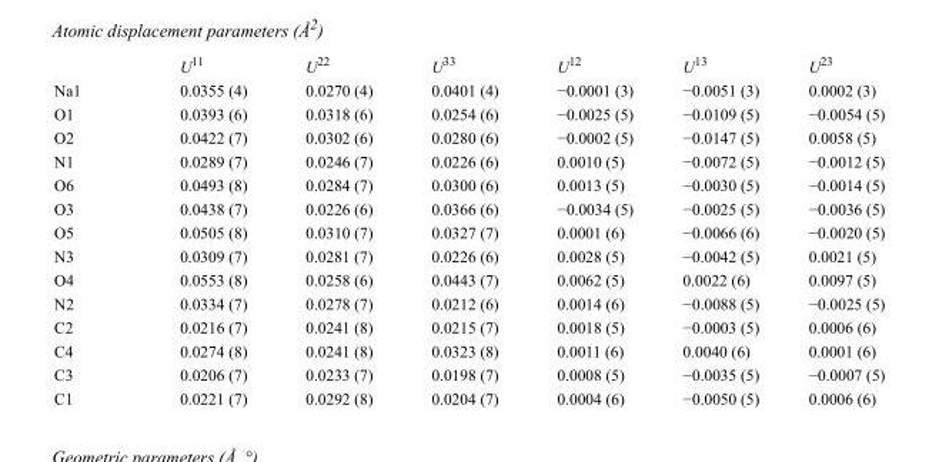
<table><thead><tr><td></td><td>U<sup>11</sup></td><td>U<sup>22</sup></td><td>U<sup>33</sup></td><td>U<sup>12</sup></td><td>U<sup>13</sup></td><td>U<sup>23</sup></td></tr></thead><tbody><tr><td>Na1</td><td>0.0355 (4)</td><td>0.0270 (4)</td><td>0.0401 (4)</td><td>−0.0001 (3)</td><td>−0.0051 (3)</td><td>0.0002 (3)</td></tr><tr><td>O1</td><td>0.0393 (6)</td><td>0.0318 (6)</td><td>0.0254 (6)</td><td>−0.0025 (5)</td><td>−0.0109 (5)</td><td>−0.0054 (5)</td></tr><tr><td>O2</td><td>0.0422 (7)</td><td>0.0302 (6)</td><td>0.0280 (6)</td><td>−0.0002 (5)</td><td>−0.0147 (5)</td><td>0.0058 (5)</td></tr><tr><td>N1</td><td>0.0289 (7)</td><td>0.0246 (7)</td><td>0.0226 (6)</td><td>0.0010 (5)</td><td>−0.0072 (5)</td><td>−0.0012 (5)</td></tr><tr><td>O6</td><td>0.0493 (8)</td><td>0.0284 (7)</td><td>0.0300 (6)</td><td>0.0013 (5)</td><td>−0.0030 (5)</td><td>−0.0014 (5)</td></tr><tr><td>O3</td><td>0.0438 (7)</td><td>0.0226 (6)</td><td>0.0366 (6)</td><td>−0.0034 (5)</td><td>−0.0025 (5)</td><td>−0.0036 (5)</td></tr><tr><td>O5</td><td>0.0505 (8)</td><td>0.0310 (7)</td><td>0.0327 (7)</td><td>0.0001 (6)</td><td>−0.0066 (6)</td><td>−0.0020 (5)</td></tr><tr><td>N3</td><td>0.0309 (7)</td><td>0.0281 (7)</td><td>0.0226 (6)</td><td>0.0028 (5)</td><td>−0.0042 (5)</td><td>0.0021 (5)</td></tr><tr><td>O4</td><td>0.0553 (8)</td><td>0.0258 (6)</td><td>0.0443 (7)</td><td>0.0062 (5)</td><td>0.0022 (6)</td><td>0.0097 (5)</td></tr><tr><td>N2</td><td>0.0334 (7)</td><td>0.0278 (7)</td><td>0.0212 (6)</td><td>0.0014 (6)</td><td>−0.0088 (5)</td><td>−0.0025 (5)</td></tr><tr><td>C2</td><td>0.0216 (7)</td><td>0.0241 (8)</td><td>0.0215 (7)</td><td>0.0018 (5)</td><td>−0.0003 (5)</td><td>0.0006 (6)</td></tr><tr><td>C4</td><td>0.0274 (8)</td><td>0.0241 (8)</td><td>0.0323 (8)</td><td>0.0011 (6)</td><td>0.0040 (6)</td><td>0.0001 (6)</td></tr><tr><td>C3</td><td>0.0206 (7)</td><td>0.0233 (7)</td><td>0.0198 (7)</td><td>0.0008 (5)</td><td>−0.0035 (5)</td><td>−0.0007 (5)</td></tr><tr><td>C1</td><td>0.0221 (7)</td><td>0.0292 (8)</td><td>0.0204 (7)</td><td>0.0004 (6)</td><td>−0.0050 (5)</td><td>0.0006 (6)</td></tr></tbody></table>